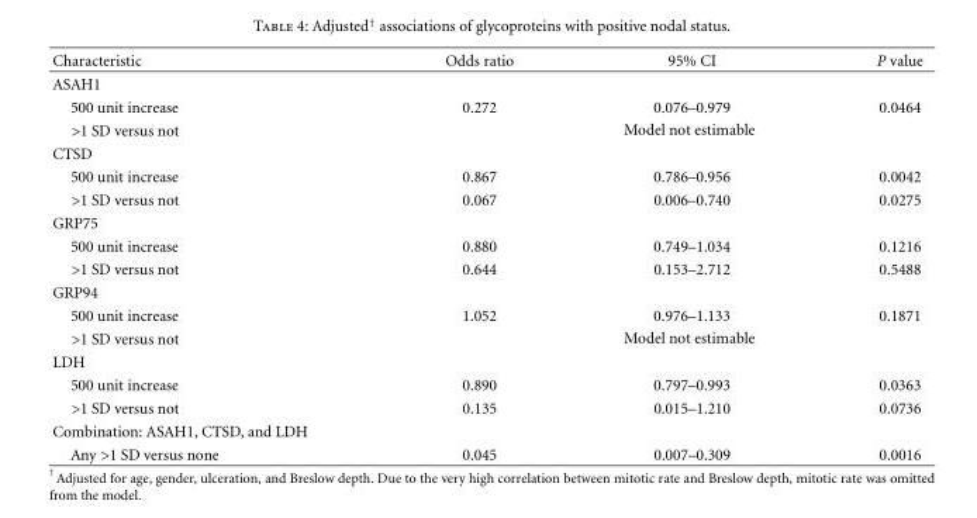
<table><thead><tr><td>Characteristic</td><td>Odds ratio</td><td>95% CI</td><td>P value</td></tr></thead><tbody><tr><td colspan="4">ASAH1</td></tr><tr><td>500 unit increase</td><td>0.272</td><td>0.076–0.979</td><td>0.0464</td></tr><tr><td>&gt;1 SD versus not</td><td colspan="3">Model not estimable</td></tr><tr><td colspan="4">CTSD</td></tr><tr><td>500 unit increase</td><td>0.867</td><td>0.786–0.956</td><td>0.0042</td></tr><tr><td>&gt;1 SD versus not</td><td>0.067</td><td>0.006–0.740</td><td>0.0275</td></tr><tr><td colspan="4">GRP75</td></tr><tr><td>500 unit increase</td><td>0.880</td><td>0.749–1.034</td><td>0.1216</td></tr><tr><td>&gt;1 SD versus not</td><td>0.644</td><td>0.153–2.712</td><td>0.5488</td></tr><tr><td colspan="4">GRP94</td></tr><tr><td>500 unit increase</td><td>1.052</td><td>0.976–1.133</td><td>0.1871</td></tr><tr><td>&gt;1 SD versus not</td><td colspan="3">Model not estimable</td></tr><tr><td colspan="4">LDH</td></tr><tr><td>500 unit increase</td><td>0.890</td><td>0.797–0.993</td><td>0.0363</td></tr><tr><td>&gt;1 SD versus not</td><td>0.135</td><td>0.015–1.210</td><td>0.0736</td></tr><tr><td colspan="4">Combination: ASAH1, CTSD, and LDH</td></tr><tr><td>Any &gt;1 SD versus none</td><td>0.045</td><td>0.007–0.309</td><td>0.0016</td></tr></tbody></table>